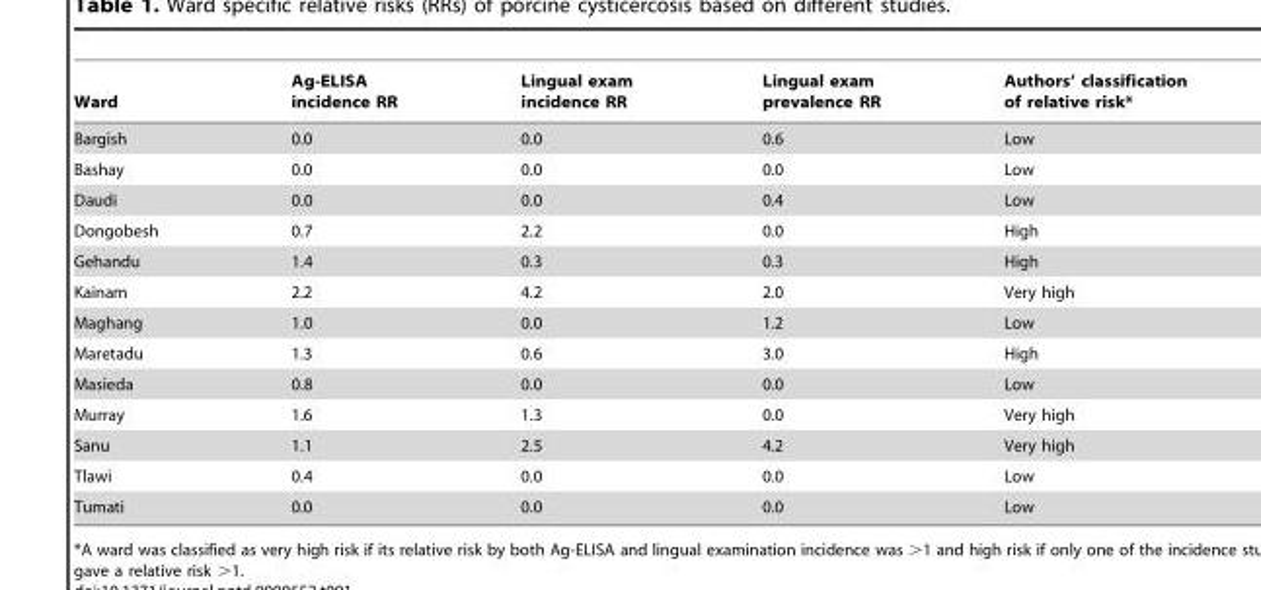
<table><thead><tr><td>Ward</td><td>Ag-ELISA incidence RR</td><td>Lingual exam incidence RR</td><td>Lingual exam prevalence RR</td><td>Authors’ classification of relative risk*</td></tr></thead><tbody><tr><td>Bargish</td><td>0.0</td><td>0.0</td><td>0.6</td><td>Low</td></tr><tr><td>Bashay</td><td>0.0</td><td>0.0</td><td>0.0</td><td>Low</td></tr><tr><td>Daudi</td><td>0.0</td><td>0.0</td><td>0.4</td><td>Low</td></tr><tr><td>Dongobesh</td><td>0.7</td><td>2.2</td><td>0.0</td><td>High</td></tr><tr><td>Gehandu</td><td>1.4</td><td>0.3</td><td>0.3</td><td>High</td></tr><tr><td>Kainam</td><td>2.2</td><td>4.2</td><td>2.0</td><td>Very high</td></tr><tr><td>Maghang</td><td>1.0</td><td>0.0</td><td>1.2</td><td>Low</td></tr><tr><td>Maretadu</td><td>1.3</td><td>0.6</td><td>3.0</td><td>High</td></tr><tr><td>Masieda</td><td>0.8</td><td>0.0</td><td>0.0</td><td>Low</td></tr><tr><td>Murray</td><td>1.6</td><td>1.3</td><td>0.0</td><td>Very high</td></tr><tr><td>Sanu</td><td>1.1</td><td>2.5</td><td>4.2</td><td>Very high</td></tr><tr><td>Tlawi</td><td>0.4</td><td>0.0</td><td>0.0</td><td>Low</td></tr><tr><td>Tumati</td><td>0.0</td><td>0.0</td><td>0.0</td><td>Low</td></tr></tbody></table>